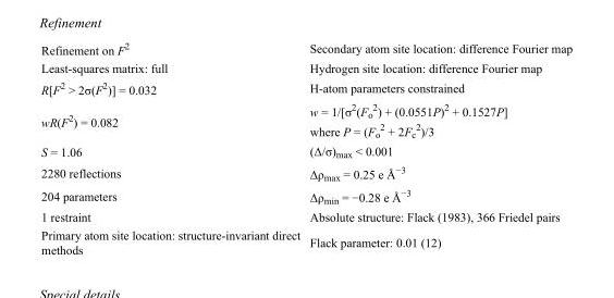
<table><tbody><tr><td>Refinement on F<sup>2</sup></td><td>Secondary atom site location: difference Fourier map</td></tr><tr><td>Least-squares matrix: full</td><td>Hydrogen site location: difference Fourier map</td></tr><tr><td>R[F<sup>2</sup> &gt; 2σ(F<sup>2</sup>)] = 0.032</td><td>H-atom parameters constrained</td></tr><tr><td>wR(F<sup>2</sup>) = 0.082</td><td>w = 1/[σ<sup>2</sup>(F<sub>o</sub> <sup>2</sup>) + (0.0551P)<sup>2</sup> + 0.1527P] where P = (F<sub>o</sub> <sup>2</sup> + 2F<sub>c</sub> <sup>2</sup>)/3</td></tr><tr><td>S = 1.06</td><td>(Δ/σ)<sub>max</sub> &lt; 0.001</td></tr><tr><td>2280 reflections</td><td>Δρ<sub>max</sub> = 0.25 e Å<sup>−3</sup></td></tr><tr><td>204 parameters</td><td>Δρ<sub>min</sub> = −0.28 e Å<sup>−3</sup></td></tr><tr><td>1 restraint</td><td>Absolute structure: Flack (1983), 366 Friedel pairs</td></tr><tr><td>Primary atom site location: structure-invariant direct methods</td><td>Flack parameter: 0.01 (12)</td></tr></tbody></table>